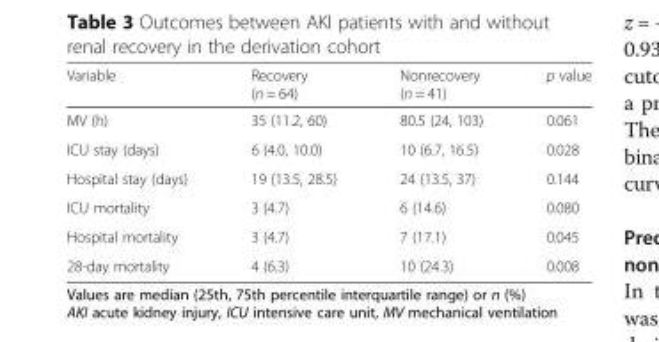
<table><thead><tr><td>Variable</td><td>Recovery (n = 64)</td><td>Nonrecovery (n = 41)</td><td>p value</td></tr></thead><tbody><tr><td>MV (h)</td><td>35 (11.2, 60)</td><td>80.5 (24, 103)</td><td>0.061</td></tr><tr><td>ICU stay (days)</td><td>6 (4.0, 10.0)</td><td>10 (6.7, 16.5)</td><td>0.028</td></tr><tr><td>Hospital stay (days)</td><td>19 (13.5, 28.5)</td><td>24 (13.5, 37)</td><td>0.144</td></tr><tr><td>ICU mortality</td><td>3 (4.7)</td><td>6 (14.6)</td><td>0.080</td></tr><tr><td>Hospital mortality</td><td>3 (4.7)</td><td>7 (17.1)</td><td>0.045</td></tr><tr><td>28-day mortality</td><td>4 (6.3)</td><td>10 (24.3)</td><td>0.008</td></tr></tbody></table>